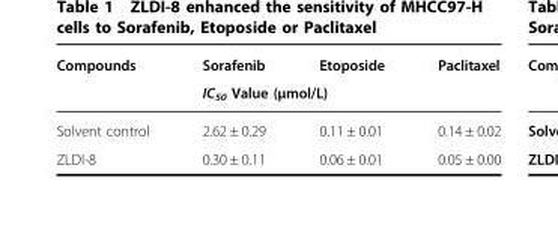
<table><thead><tr><td rowspan="2">Compounds</td><td>Sorafenib</td><td>Etoposide</td><td>Paclitaxel</td></tr><tr><td colspan="3">IC<sub>50</sub> Value (μmol/L)</td></tr></thead><tbody><tr><td>Solvent control</td><td>2.62 ± 0.29</td><td>0.11 ± 0.01</td><td>0.14 ± 0.02</td></tr><tr><td>ZLDI-8</td><td>0.30 ± 0.11</td><td>0.06 ± 0.01</td><td>0.05 ± 0.00</td></tr></tbody></table>